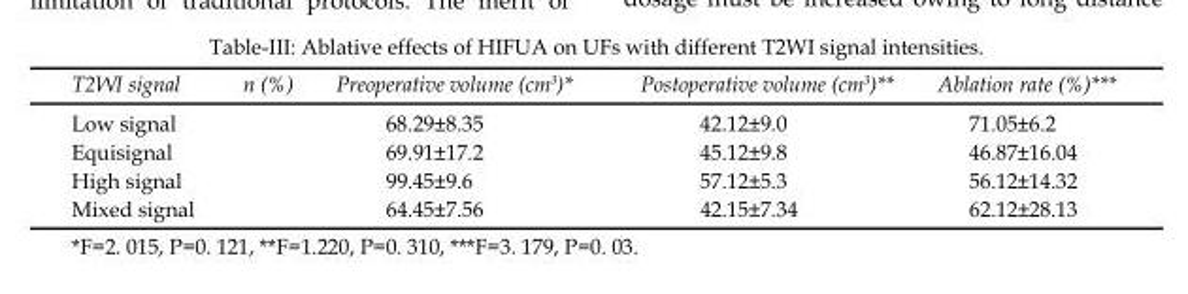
<table><thead><tr><td>T2WI signal</td><td>n (%)</td><td>Preoperative volume (cm<sup>3</sup>)*</td><td>Postoperative volume (cm<sup>3</sup>)**</td><td>Ablation rate (%)***</td></tr></thead><tbody><tr><td>Low signal</td><td></td><td>68.29±8.35</td><td>42.12±9.0</td><td>71.05±6.2</td></tr><tr><td>Equisignal</td><td></td><td>69.91±17.2</td><td>45.12±9.8</td><td>46.87±16.04</td></tr><tr><td>High signal</td><td></td><td>99.45±9.6</td><td>57.12±5.3</td><td>56.12±14.32</td></tr><tr><td>Mixed signal</td><td></td><td>64.45±7.56</td><td>42.15±7.34</td><td>62.12±28.13</td></tr></tbody></table>